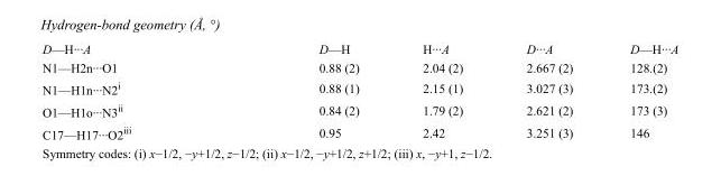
<table><tbody><tr><td>D—H···A</td><td>D—H</td><td>H···A</td><td>D···A</td><td>D—H···A</td></tr><tr><td>N1—H2n···O1</td><td>0.88 (2)</td><td>2.04 (2)</td><td>2.667 (2)</td><td>128.(2)</td></tr><tr><td>N1—H1n···N2<sup>i</sup></td><td>0.88 (1)</td><td>2.15 (1)</td><td>3.027 (3)</td><td>173.(2)</td></tr><tr><td>O1—H1o···N3<sup>ii</sup></td><td>0.84 (2)</td><td>1.79 (2)</td><td>2.621 (2)</td><td>173 (3)</td></tr><tr><td>C17—H17···O2<sup>iii</sup></td><td>0.95</td><td>2.42</td><td>3.251 (3)</td><td>146</td></tr></tbody></table>